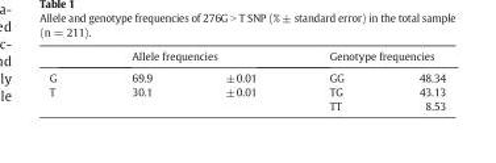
<table><thead><tr><td rowspan="2">G</td><td colspan="2">Allele frequencies</td><td colspan="2">Genotype frequencies</td></tr><tr><td>69.9</td><td>±0.01</td><td>GG</td><td>48.34</td></tr></thead><tbody><tr><td rowspan="2">T</td><td>30.1</td><td>±0.01</td><td>TG</td><td>43.13</td></tr><tr><td></td><td></td><td>TT</td><td>8.53</td></tr></tbody></table>